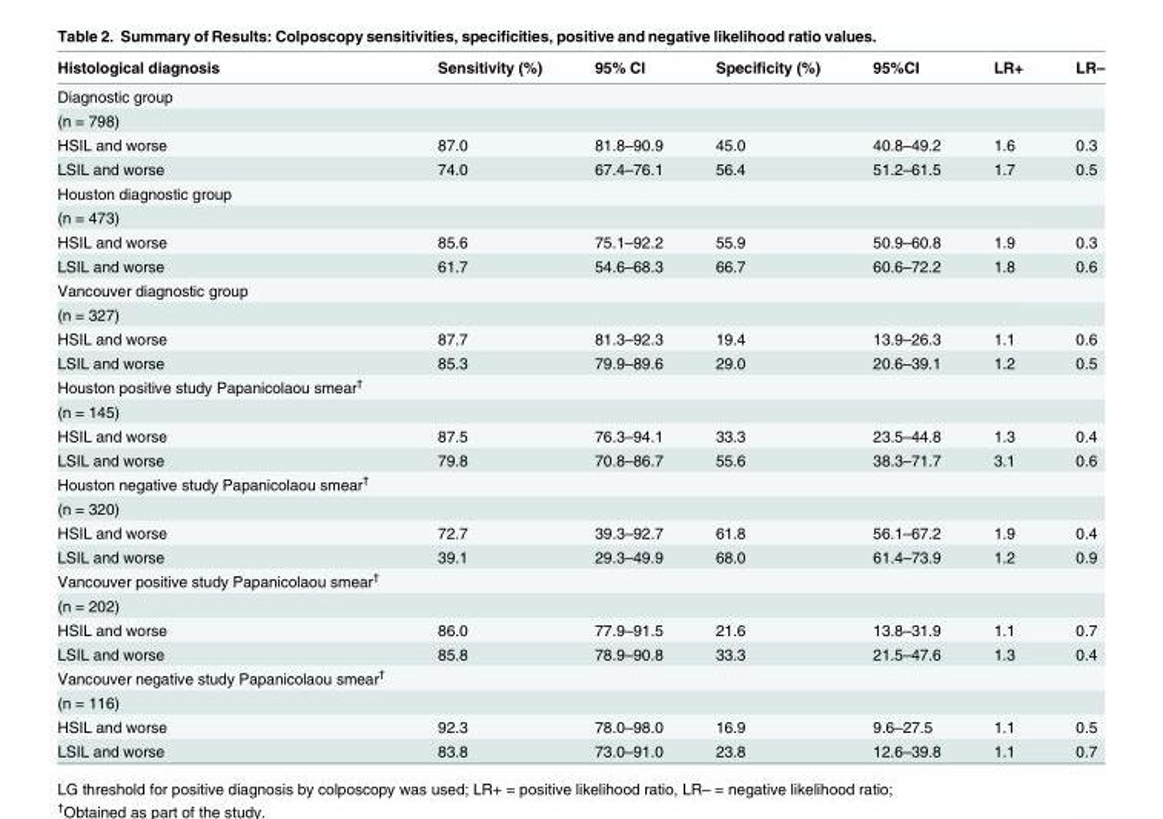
<table><thead><tr><td>Histological diagnosis</td><td>Sensitivity (%)</td><td>95% CI</td><td>Specificity (%)</td><td>95%CI</td><td>LR+</td><td>LR–</td></tr></thead><tbody><tr><td colspan="7">Diagnostic group</td></tr><tr><td colspan="7">(n = 798)</td></tr><tr><td>HSIL and worse</td><td>87.0</td><td>81.8–90.9</td><td>45.0</td><td>40.8–49.2</td><td>1.6</td><td>0.3</td></tr><tr><td>LSIL and worse</td><td>74.0</td><td>67.4–76.1</td><td>56.4</td><td>51.2–61.5</td><td>1.7</td><td>0.5</td></tr><tr><td colspan="7">Houston diagnostic group</td></tr><tr><td colspan="7">(n = 473)</td></tr><tr><td>HSIL and worse</td><td>85.6</td><td>75.1–92.2</td><td>55.9</td><td>50.9–60.8</td><td>1.9</td><td>0.3</td></tr><tr><td>LSIL and worse</td><td>61.7</td><td>54.6–68.3</td><td>66.7</td><td>60.6–72.2</td><td>1.8</td><td>0.6</td></tr><tr><td colspan="7">Vancouver diagnostic group</td></tr><tr><td colspan="7">(n = 327)</td></tr><tr><td>HSIL and worse</td><td>87.7</td><td>81.3–92.3</td><td>19.4</td><td>13.9–26.3</td><td>1.1</td><td>0.6</td></tr><tr><td>LSIL and worse</td><td>85.3</td><td>79.9–89.6</td><td>29.0</td><td>20.6–39.1</td><td>1.2</td><td>0.5</td></tr><tr><td colspan="7">Houston positive study Papanicolaou smear<sup>†</sup></td></tr><tr><td colspan="7">(n = 145)</td></tr><tr><td>HSIL and worse</td><td>87.5</td><td>76.3–94.1</td><td>33.3</td><td>23.5–44.8</td><td>1.3</td><td>0.4</td></tr><tr><td>LSIL and worse</td><td>79.8</td><td>70.8–86.7</td><td>55.6</td><td>38.3–71.7</td><td>3.1</td><td>0.6</td></tr><tr><td colspan="7">Houston negative study Papanicolaou smear<sup>†</sup></td></tr><tr><td colspan="7">(n = 320)</td></tr><tr><td>HSIL and worse</td><td>72.7</td><td>39.3–92.7</td><td>61.8</td><td>56.1–67.2</td><td>1.9</td><td>0.4</td></tr><tr><td>LSIL and worse</td><td>39.1</td><td>29.3–49.9</td><td>68.0</td><td>61.4–73.9</td><td>1.2</td><td>0.9</td></tr><tr><td colspan="7">Vancouver positive study Papanicolaou smear<sup>†</sup></td></tr><tr><td colspan="7">(n = 202)</td></tr><tr><td>HSIL and worse</td><td>86.0</td><td>77.9–91.5</td><td>21.6</td><td>13.8–31.9</td><td>1.1</td><td>0.7</td></tr><tr><td>LSIL and worse</td><td>85.8</td><td>78.9–90.8</td><td>33.3</td><td>21.5–47.6</td><td>1.3</td><td>0.4</td></tr><tr><td colspan="7">Vancouver negative study Papanicolaou smear<sup>†</sup></td></tr><tr><td colspan="7">(n = 116)</td></tr><tr><td>HSIL and worse</td><td>92.3</td><td>78.0–98.0</td><td>16.9</td><td>9.6–27.5</td><td>1.1</td><td>0.5</td></tr><tr><td>LSIL and worse</td><td>83.8</td><td>73.0–91.0</td><td>23.8</td><td>12.6–39.8</td><td>1.1</td><td>0.7</td></tr></tbody></table>